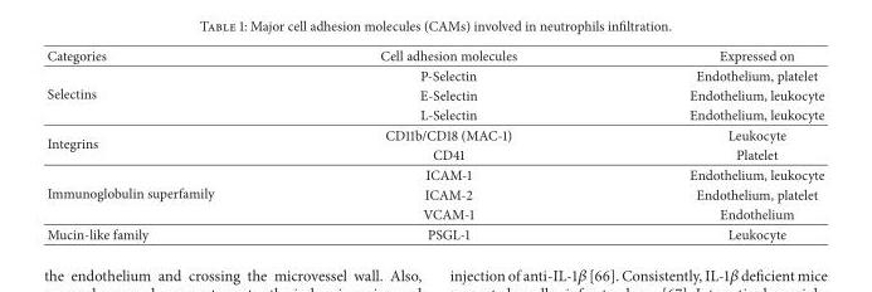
<table><thead><tr><td>Categories</td><td>Cell adhesion molecules</td><td>Expressed on</td></tr></thead><tbody><tr><td rowspan="3">Selectins</td><td>P-Selectin</td><td>Endothelium, platelet</td></tr><tr><td>E-Selectin</td><td>Endothelium, leukocyte</td></tr><tr><td>L-Selectin</td><td>Endothelium, leukocyte</td></tr><tr><td rowspan="2">Integrins</td><td>CD11b/CD18 (MAC-1)</td><td>Leukocyte</td></tr><tr><td>CD41</td><td>Platelet</td></tr><tr><td rowspan="3">Immunoglobulin superfamily</td><td>ICAM-1</td><td>Endothelium, leukocyte</td></tr><tr><td>ICAM-2</td><td>Endothelium, platelet</td></tr><tr><td>VCAM-1</td><td>Endothelium</td></tr><tr><td>Mucin-like family</td><td>PSGL-1</td><td>Leukocyte</td></tr></tbody></table>